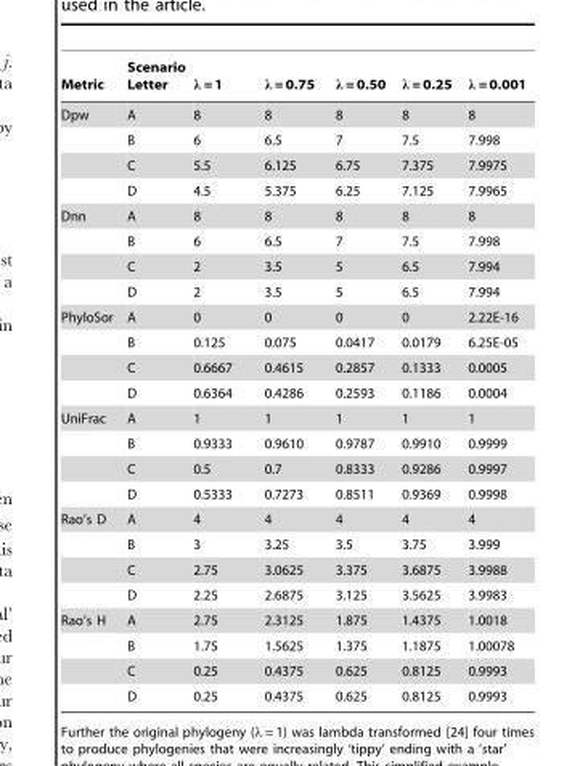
<table><thead><tr><td>Metric</td><td>Scenario Letter</td><td>λ = 1</td><td>λ = 0.75</td><td>λ = 0.50</td><td>λ = 0.25</td><td>λ = 0.001</td></tr></thead><tbody><tr><td rowspan="4">Dpw</td><td>A</td><td>8</td><td>8</td><td>8</td><td>8</td><td>8</td></tr><tr><td>B</td><td>6</td><td>6.5</td><td>7</td><td>7.5</td><td>7.998</td></tr><tr><td>C</td><td>5.5</td><td>6.125</td><td>6.75</td><td>7.375</td><td>7.9975</td></tr><tr><td>D</td><td>4.5</td><td>5.375</td><td>6.25</td><td>7.125</td><td>7.9965</td></tr><tr><td rowspan="4">Dnn</td><td>A</td><td>8</td><td>8</td><td>8</td><td>8</td><td>8</td></tr><tr><td>B</td><td>6</td><td>6.5</td><td>7</td><td>7.5</td><td>7.998</td></tr><tr><td>C</td><td>2</td><td>3.5</td><td>5</td><td>6.5</td><td>7.994</td></tr><tr><td>D</td><td>2</td><td>3.5</td><td>5</td><td>6.5</td><td>7.994</td></tr><tr><td rowspan="4">PhyloSor</td><td>A</td><td>0</td><td>0</td><td>0</td><td>0</td><td>2.22E-16</td></tr><tr><td>B</td><td>0.125</td><td>0.075</td><td>0.0417</td><td>0.0179</td><td>6.25E-05</td></tr><tr><td>C</td><td>0.6667</td><td>0.4615</td><td>0.2857</td><td>0.1333</td><td>0.0005</td></tr><tr><td>D</td><td>0.6364</td><td>0.4286</td><td>0.2593</td><td>0.1186</td><td>0.0004</td></tr><tr><td rowspan="4">UniFrac</td><td>A</td><td>1</td><td>1</td><td>1</td><td>1</td><td>1</td></tr><tr><td>B</td><td>0.9333</td><td>0.9610</td><td>0.9787</td><td>0.9910</td><td>0.9999</td></tr><tr><td>C</td><td>0.5</td><td>0.7</td><td>0.8333</td><td>0.9286</td><td>0.9997</td></tr><tr><td>D</td><td>0.5333</td><td>0.7273</td><td>0.8511</td><td>0.9369</td><td>0.9998</td></tr><tr><td rowspan="4">Rao’s D</td><td>A</td><td>4</td><td>4</td><td>4</td><td>4</td><td>4</td></tr><tr><td>B</td><td>3</td><td>3.25</td><td>3.5</td><td>3.75</td><td>3.999</td></tr><tr><td>C</td><td>2.75</td><td>3.0625</td><td>3.375</td><td>3.6875</td><td>3.9988</td></tr><tr><td>D</td><td>2.25</td><td>2.6875</td><td>3.125</td><td>3.5625</td><td>3.9983</td></tr><tr><td rowspan="4">Rao’s H</td><td>A</td><td>2.75</td><td>2.3125</td><td>1.875</td><td>1.4375</td><td>1.0018</td></tr><tr><td>B</td><td>1.75</td><td>1.5625</td><td>1.375</td><td>1.1875</td><td>1.00078</td></tr><tr><td>C</td><td>0.25</td><td>0.4375</td><td>0.625</td><td>0.8125</td><td>0.9993</td></tr><tr><td>D</td><td>0.25</td><td>0.4375</td><td>0.625</td><td>0.8125</td><td>0.9993</td></tr></tbody></table>